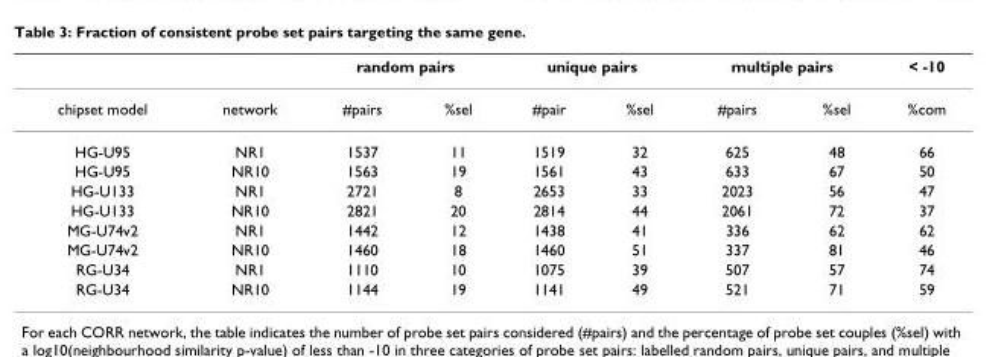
<table><thead><tr><td rowspan="2">chipset model</td><td rowspan="2">network</td><td colspan="2">random pairs</td><td colspan="2">unique pairs</td><td colspan="2">multiple pairs</td><td rowspan="2">&lt; -10 %com</td></tr><tr><td>#pairs</td><td>%sel</td><td>#pair</td><td>%sel</td><td>#pairs</td><td>%sel</td></tr></thead><tbody><tr><td>HG-U95</td><td>NR1</td><td>1537</td><td>11</td><td>1519</td><td>32</td><td>625</td><td>48</td><td>66</td></tr><tr><td>HG-U95</td><td>NR10</td><td>1563</td><td>19</td><td>1561</td><td>43</td><td>633</td><td>67</td><td>50</td></tr><tr><td>HG-U133</td><td>NR1</td><td>2721</td><td>8</td><td>2653</td><td>33</td><td>2023</td><td>56</td><td>47</td></tr><tr><td>HG-U133</td><td>NR10</td><td>2821</td><td>20</td><td>2814</td><td>44</td><td>2061</td><td>72</td><td>37</td></tr><tr><td>MG-U74v2</td><td>NR1</td><td>1442</td><td>12</td><td>1438</td><td>41</td><td>336</td><td>62</td><td>62</td></tr><tr><td>MG-U74v2</td><td>NR10</td><td>1460</td><td>18</td><td>1460</td><td>51</td><td>337</td><td>81</td><td>46</td></tr><tr><td>RG-U34</td><td>NR1</td><td>1110</td><td>10</td><td>1075</td><td>39</td><td>507</td><td>57</td><td>74</td></tr><tr><td>RG-U34</td><td>NR10</td><td>1144</td><td>19</td><td>1141</td><td>49</td><td>521</td><td>71</td><td>59</td></tr></tbody></table>